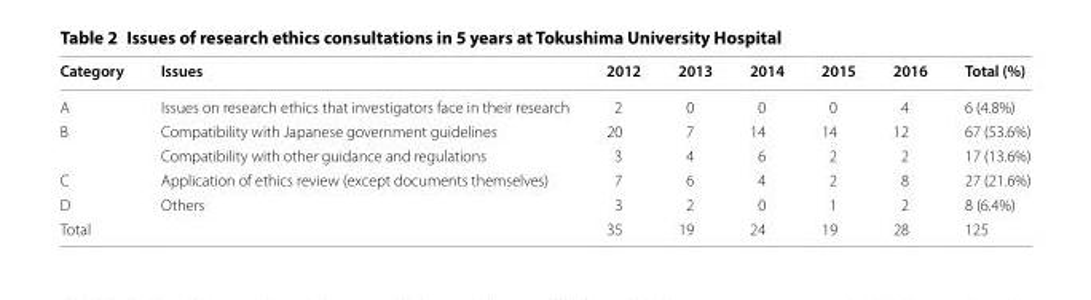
<table><thead><tr><td>Category</td><td>Issues</td><td>2012</td><td>2013</td><td>2014</td><td>2015</td><td>2016</td><td>Total (%)</td></tr></thead><tbody><tr><td>A</td><td>Issues on research ethics that investigators face in their research</td><td>2</td><td>0</td><td>0</td><td>0</td><td>4</td><td>6 (4.8%)</td></tr><tr><td rowspan="2">B</td><td>Compatibility with Japanese government guidelines</td><td>20</td><td>7</td><td>14</td><td>14</td><td>12</td><td>67 (53.6%)</td></tr><tr><td>Compatibility with other guidance and regulations</td><td>3</td><td>4</td><td>6</td><td>2</td><td>2</td><td>17 (13.6%)</td></tr><tr><td>C</td><td>Application of ethics review (except documents themselves)</td><td>7</td><td>6</td><td>4</td><td>2</td><td>8</td><td>27 (21.6%)</td></tr><tr><td>D</td><td>Others</td><td>3</td><td>2</td><td>0</td><td>1</td><td>2</td><td>8 (6.4%)</td></tr><tr><td>Total</td><td></td><td>35</td><td>19</td><td>24</td><td>19</td><td>28</td><td>125</td></tr></tbody></table>